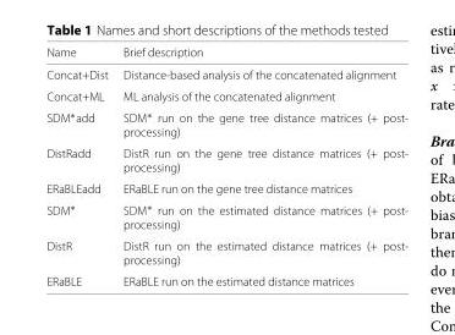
<table><thead><tr><td>Name</td><td>Brief description</td></tr></thead><tbody><tr><td>Concat+Dist</td><td>Distance-based analysis of the concatenated alignment</td></tr><tr><td>Concat+ML</td><td>ML analysis of the concatenated alignment</td></tr><tr><td>SDM∗add</td><td>SDM∗ run on the gene tree distance matrices (+ post- processing)</td></tr><tr><td>DistRadd</td><td>DistR run on the gene tree distance matrices (+ post- processing)</td></tr><tr><td>ERaBLEadd</td><td>ERaBLE run on the gene tree distance matrices</td></tr><tr><td>SDM∗</td><td>SDM∗ run on the estimated distance matrices (+ post- processing)</td></tr><tr><td>DistR</td><td>DistR run on the estimated distance matrices (+ post- processing)</td></tr><tr><td>ERaBLE</td><td>ERaBLE run on the estimated distance matrices</td></tr></tbody></table>